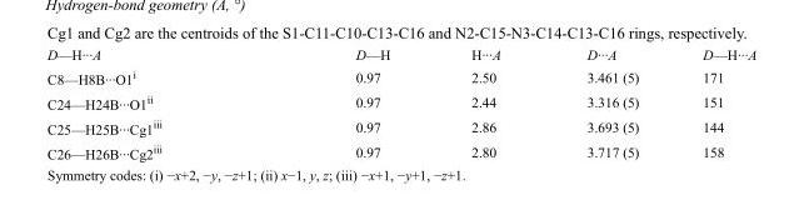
<table><tbody><tr><td>D—H···A</td><td>D—H</td><td>H···A</td><td>D···A</td><td>D—H···A</td></tr><tr><td>C8—H8B···O1<sup>i</sup></td><td>0.97</td><td>2.50</td><td>3.461 (5)</td><td>171</td></tr><tr><td>C24—H24B···O1<sup>ii</sup></td><td>0.97</td><td>2.44</td><td>3.316 (5)</td><td>151</td></tr><tr><td>C25—H25B···Cg1<sup>iii</sup></td><td>0.97</td><td>2.86</td><td>3.693 (5)</td><td>144</td></tr><tr><td>C26—H26B···Cg2<sup>iii</sup></td><td>0.97</td><td>2.80</td><td>3.717 (5)</td><td>158</td></tr></tbody></table>